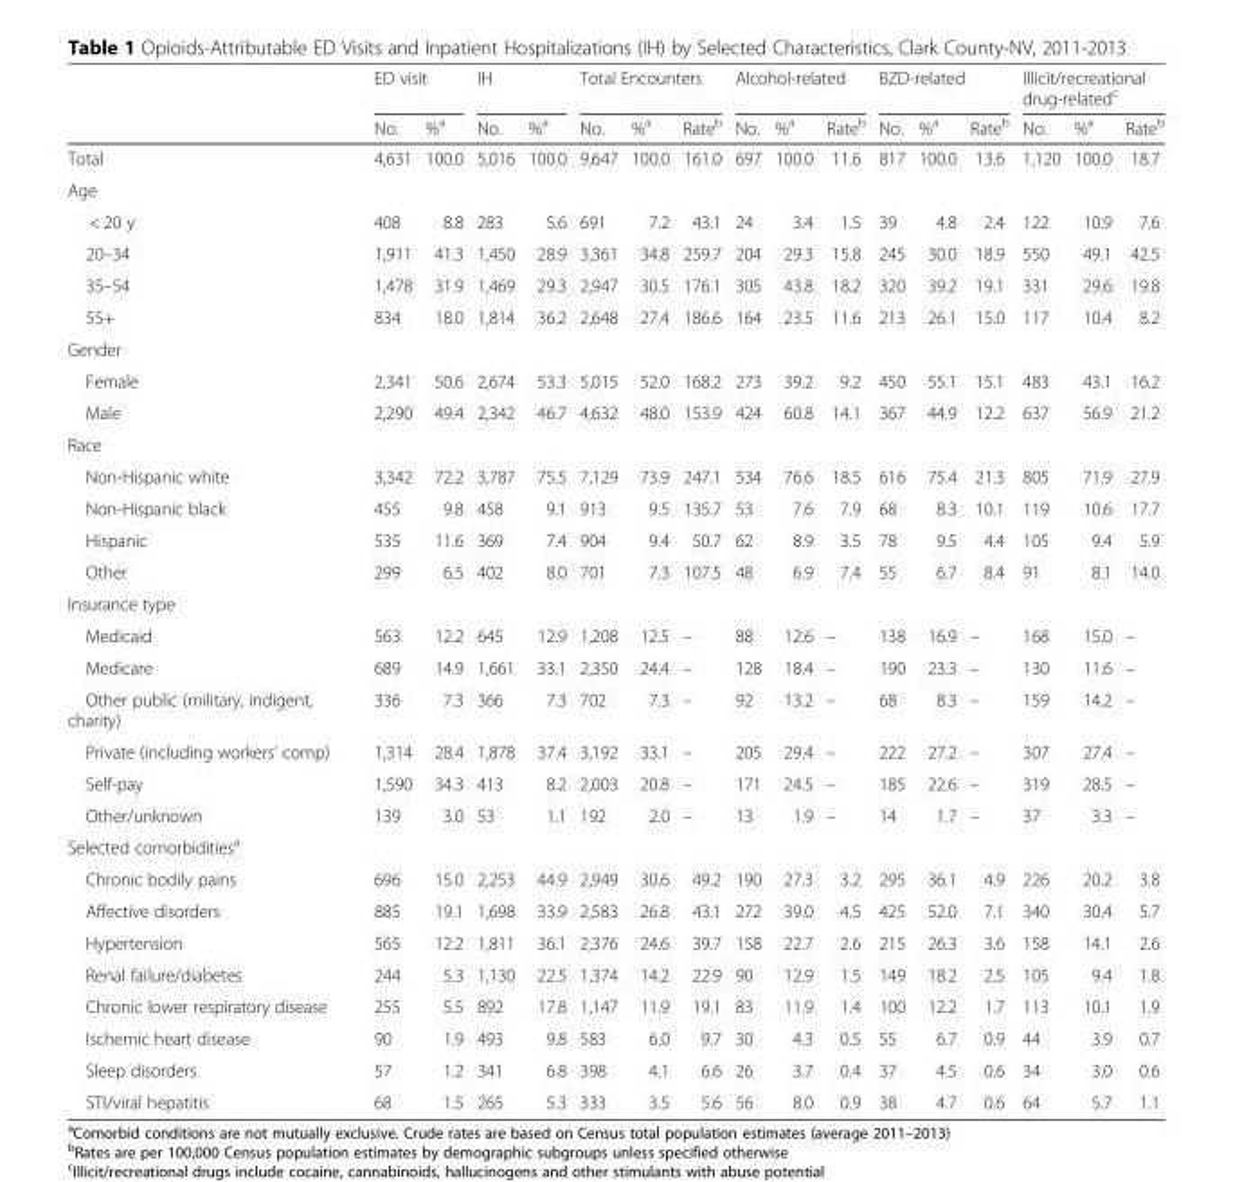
<table><thead><tr><td rowspan="2"></td><td colspan="2">ED visit</td><td colspan="2">IH</td><td colspan="3">Total Encounters</td><td colspan="3">Alcohol-related</td><td colspan="3">BZD-related</td><td colspan="3">Illicit/recreational drug-related<sup>c</sup></td></tr><tr><td>No.</td><td>%<sup>a</sup></td><td>No.</td><td>%<sup>a</sup></td><td>No.</td><td>%<sup>a</sup></td><td>Rate<sup>b</sup></td><td>No.</td><td>%<sup>a</sup></td><td>Rate<sup>b</sup></td><td>No.</td><td>%<sup>a</sup></td><td>Rate<sup>b</sup></td><td>No.</td><td>%<sup>a</sup></td><td>Rate<sup>b</sup></td></tr></thead><tbody><tr><td>Total</td><td>4,631</td><td>100.0</td><td>5,016</td><td>100.0</td><td>9,647</td><td>100.0</td><td>161.0</td><td>697</td><td>100.0</td><td>11.6</td><td>817</td><td>100.0</td><td>13.6</td><td>1,120</td><td>100.0</td><td>18.7</td></tr><tr><td colspan="17">Age</td></tr><tr><td>&lt; 20 y</td><td>408</td><td>8.8</td><td>283</td><td>5.6</td><td>691</td><td>7.2</td><td>43.1</td><td>24</td><td>3.4</td><td>1.5</td><td>39</td><td>4.8</td><td>2.4</td><td>122</td><td>10.9</td><td>7.6</td></tr><tr><td>20–34</td><td>1,911</td><td>41.3</td><td>1,450</td><td>28.9</td><td>3,361</td><td>34.8</td><td>259.7</td><td>204</td><td>29.3</td><td>15.8</td><td>245</td><td>30.0</td><td>18.9</td><td>550</td><td>49.1</td><td>42.5</td></tr><tr><td>35–54</td><td>1,478</td><td>31.9</td><td>1,469</td><td>29.3</td><td>2,947</td><td>30.5</td><td>176.1</td><td>305</td><td>43.8</td><td>18.2</td><td>320</td><td>39.2</td><td>19.1</td><td>331</td><td>29.6</td><td>19.8</td></tr><tr><td>55+</td><td>834</td><td>18.0</td><td>1,814</td><td>36.2</td><td>2,648</td><td>27.4</td><td>186.6</td><td>164</td><td>23.5</td><td>11.6</td><td>213</td><td>26.1</td><td>15.0</td><td>117</td><td>10.4</td><td>8.2</td></tr><tr><td colspan="17">Gender</td></tr><tr><td>Female</td><td>2,341</td><td>50.6</td><td>2,674</td><td>53.3</td><td>5,015</td><td>52.0</td><td>168.2</td><td>273</td><td>39.2</td><td>9.2</td><td>450</td><td>55.1</td><td>15.1</td><td>483</td><td>43.1</td><td>16.2</td></tr><tr><td>Male</td><td>2,290</td><td>49.4</td><td>2,342</td><td>46.7</td><td>4,632</td><td>48.0</td><td>153.9</td><td>424</td><td>60.8</td><td>14.1</td><td>367</td><td>44.9</td><td>12.2</td><td>637</td><td>56.9</td><td>21.2</td></tr><tr><td colspan="17">Race</td></tr><tr><td>Non-Hispanic white</td><td>3,342</td><td>72.2</td><td>3,787</td><td>75.5</td><td>7,129</td><td>73.9</td><td>247.1</td><td>534</td><td>76.6</td><td>18.5</td><td>616</td><td>75.4</td><td>21.3</td><td>805</td><td>71.9</td><td>27.9</td></tr><tr><td>Non-Hispanic black</td><td>455</td><td>9.8</td><td>458</td><td>9.1</td><td>913</td><td>9.5</td><td>135.7</td><td>53</td><td>7.6</td><td>7.9</td><td>68</td><td>8.3</td><td>10.1</td><td>119</td><td>10.6</td><td>17.7</td></tr><tr><td>Hispanic</td><td>535</td><td>11.6</td><td>369</td><td>7.4</td><td>904</td><td>9.4</td><td>50.7</td><td>62</td><td>8.9</td><td>3.5</td><td>78</td><td>9.5</td><td>4.4</td><td>105</td><td>9.4</td><td>5.9</td></tr><tr><td>Other</td><td>299</td><td>6.5</td><td>402</td><td>8.0</td><td>701</td><td>7.3</td><td>107.5</td><td>48</td><td>6.9</td><td>7.4</td><td>55</td><td>6.7</td><td>8.4</td><td>91</td><td>8.1</td><td>14.0</td></tr><tr><td colspan="17">Insurance type</td></tr><tr><td>Medicaid</td><td>563</td><td>12.2</td><td>645</td><td>12.9</td><td>1,208</td><td>12.5</td><td>–</td><td>88</td><td>12.6</td><td>–</td><td>138</td><td>16.9</td><td>–</td><td>168</td><td>15.0</td><td>–</td></tr><tr><td>Medicare</td><td>689</td><td>14.9</td><td>1,661</td><td>33.1</td><td>2,350</td><td>24.4</td><td>–</td><td>128</td><td>18.4</td><td>–</td><td>190</td><td>23.3</td><td>–</td><td>130</td><td>11.6</td><td>–</td></tr><tr><td>Other public (military, indigent, charity)</td><td>336</td><td>7.3</td><td>366</td><td>7.3</td><td>702</td><td>7.3</td><td>–</td><td>92</td><td>13.2</td><td>–</td><td>68</td><td>8.3</td><td>–</td><td>159</td><td>14.2</td><td>–</td></tr><tr><td>Private (including workers’ comp)</td><td>1,314</td><td>28.4</td><td>1,878</td><td>37.4</td><td>3,192</td><td>33.1</td><td>–</td><td>205</td><td>29.4</td><td>–</td><td>222</td><td>27.2</td><td>–</td><td>307</td><td>27.4</td><td>–</td></tr><tr><td>Self-pay</td><td>1,590</td><td>34.3</td><td>413</td><td>8.2</td><td>2,003</td><td>20.8</td><td>–</td><td>171</td><td>24.5</td><td>–</td><td>185</td><td>22.6</td><td>–</td><td>319</td><td>28.5</td><td>–</td></tr><tr><td>Other/unknown</td><td>139</td><td>3.0</td><td>53</td><td>1.1</td><td>192</td><td>2.0</td><td>–</td><td>13</td><td>1.9</td><td>–</td><td>14</td><td>1.7</td><td>–</td><td>37</td><td>3.3</td><td>–</td></tr><tr><td colspan="17">Selected comorbidities<sup>a</sup></td></tr><tr><td>Chronic bodily pains</td><td>696</td><td>15.0</td><td>2,253</td><td>44.9</td><td>2,949</td><td>30.6</td><td>49.2</td><td>190</td><td>27.3</td><td>3.2</td><td>295</td><td>36.1</td><td>4.9</td><td>226</td><td>20.2</td><td>3.8</td></tr><tr><td>Affective disorders</td><td>885</td><td>19.1</td><td>1,698</td><td>33.9</td><td>2,583</td><td>26.8</td><td>43.1</td><td>272</td><td>39.0</td><td>4.5</td><td>425</td><td>52.0</td><td>7.1</td><td>340</td><td>30.4</td><td>5.7</td></tr><tr><td>Hypertension</td><td>565</td><td>12.2</td><td>1,811</td><td>36.1</td><td>2,376</td><td>24.6</td><td>39.7</td><td>158</td><td>22.7</td><td>2.6</td><td>215</td><td>26.3</td><td>3.6</td><td>158</td><td>14.1</td><td>2.6</td></tr><tr><td>Renal failure/diabetes</td><td>244</td><td>5.3</td><td>1,130</td><td>22.5</td><td>1,374</td><td>14.2</td><td>22.9</td><td>90</td><td>12.9</td><td>1.5</td><td>149</td><td>18.2</td><td>2.5</td><td>105</td><td>9.4</td><td>1.8</td></tr><tr><td>Chronic lower respiratory disease</td><td>255</td><td>5.5</td><td>892</td><td>17.8</td><td>1,147</td><td>11.9</td><td>19.1</td><td>83</td><td>11.9</td><td>1.4</td><td>100</td><td>12.2</td><td>1.7</td><td>113</td><td>10.1</td><td>1.9</td></tr><tr><td>Ischemic heart disease</td><td>90</td><td>1.9</td><td>493</td><td>9.8</td><td>583</td><td>6.0</td><td>9.7</td><td>30</td><td>4.3</td><td>0.5</td><td>55</td><td>6.7</td><td>0.9</td><td>44</td><td>3.9</td><td>0.7</td></tr><tr><td>Sleep disorders</td><td>57</td><td>1.2</td><td>341</td><td>6.8</td><td>398</td><td>4.1</td><td>6.6</td><td>26</td><td>3.7</td><td>0.4</td><td>37</td><td>4.5</td><td>0.6</td><td>34</td><td>3.0</td><td>0.6</td></tr><tr><td>STI/viral hepatitis</td><td>68</td><td>1.5</td><td>265</td><td>5.3</td><td>333</td><td>3.5</td><td>5.6</td><td>56</td><td>8.0</td><td>0.9</td><td>38</td><td>4.7</td><td>0.6</td><td>64</td><td>5.7</td><td>1.1</td></tr></tbody></table>